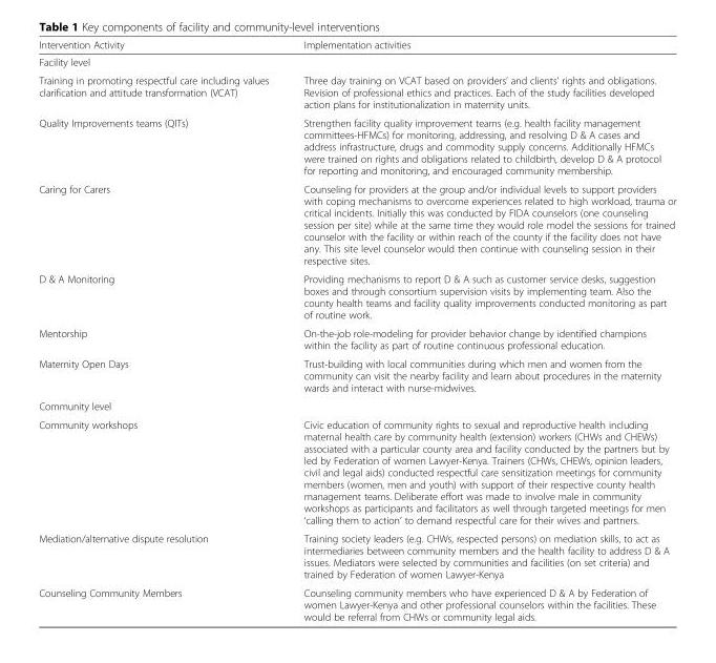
<table><thead><tr><td>Intervention Activity</td><td>Implementation activities</td></tr></thead><tbody><tr><td colspan="2">Facility level</td></tr><tr><td>Training in promoting respectful care including values clarification and attitude transformation (VCAT)</td><td>Three day training on VCAT based on providers’ and clients’ rights and obligations. Revision of professional ethics and practices. Each of the study facilities developed action plans for institutionalization in maternity units.</td></tr><tr><td>Quality Improvements teams (QITs)</td><td>Strengthen facility quality improvement teams (e.g. health facility management committees-HFMCs) for monitoring, addressing, and resolving D &amp; A cases and address infrastructure, drugs and commodity supply concerns. Additionally HFMCs were trained on rights and obligations related to childbirth, develop D &amp; A protocol for reporting and monitoring, and encouraged community membership.</td></tr><tr><td>Caring for Carers</td><td>Counseling for providers at the group and/or individual levels to support providers with coping mechanisms to overcome experiences related to high workload, trauma or critical incidents. Initially this was conducted by FIDA counselors (one counseling session per site) while at the same time they would role model the sessions for trained counselor with the facility or within reach of the county if the facility does not have any. This site level counselor would then continue with counseling session in their respective sites.</td></tr><tr><td>D &amp; A Monitoring</td><td>Providing mechanisms to report D &amp; A such as customer service desks, suggestion boxes and through consortium supervision visits by implementing team. Also the county health teams and facility quality improvements conducted monitoring as part of routine work.</td></tr><tr><td>Mentorship</td><td>On-the-job role-modeling for provider behavior change by identified champions within the facility as part of routine continuous professional education.</td></tr><tr><td>Maternity Open Days</td><td>Trust-building with local communities during which men and women from the community can visit the nearby facility and learn about procedures in the maternity wards and interact with nurse-midwives.</td></tr><tr><td colspan="2">Community level</td></tr><tr><td>Community workshops</td><td>Civic education of community rights to sexual and reproductive health including maternal health care by community health (extension) workers (CHWs and CHEWs) associated with a particular county area and facility conducted by the partners but by led by Federation of women Lawyer-Kenya. Trainers (CHWs, CHEWs, opinion leaders, civil and legal aids) conducted respectful care sensitization meetings for community members (women, men and youth) with support of their respective county health management teams. Deliberate effort was made to involve male in community workshops as participants and facilitators as well through targeted meetings for men ‘calling them to action’ to demand respectful care for their wives and partners.</td></tr><tr><td>Mediation/alternative dispute resolution</td><td>Training society leaders (e.g. CHWs, respected persons) on mediation skills, to act as intermediaries between community members and the health facility to address D &amp; A issues. Mediators were selected by communities and facilities (on set criteria) and trained by Federation of women Lawyer-Kenya</td></tr><tr><td>Counseling Community Members</td><td>Counseling community members who have experienced D &amp; A by Federation of women Lawyer-Kenya and other professional counselors within the facilities. These would be referral from CHWs or community legal aids.</td></tr></tbody></table>